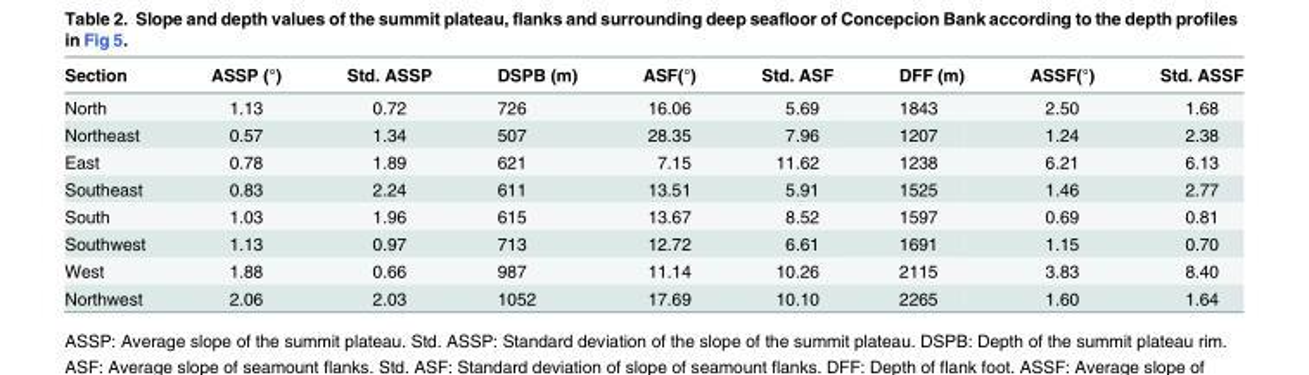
<table><thead><tr><td>Section</td><td>ASSP (°)</td><td>Std. ASSP</td><td>DSPB (m)</td><td>ASF(°)</td><td>Std. ASF</td><td>DFF (m)</td><td>ASSF(°)</td><td>Std. ASSF</td></tr></thead><tbody><tr><td>North</td><td>1.13</td><td>0.72</td><td>726</td><td>16.06</td><td>5.69</td><td>1843</td><td>2.50</td><td>1.68</td></tr><tr><td>Northeast</td><td>0.57</td><td>1.34</td><td>507</td><td>28.35</td><td>7.96</td><td>1207</td><td>1.24</td><td>2.38</td></tr><tr><td>East</td><td>0.78</td><td>1.89</td><td>621</td><td>7.15</td><td>11.62</td><td>1238</td><td>6.21</td><td>6.13</td></tr><tr><td>Southeast</td><td>0.83</td><td>2.24</td><td>611</td><td>13.51</td><td>5.91</td><td>1525</td><td>1.46</td><td>2.77</td></tr><tr><td>South</td><td>1.03</td><td>1.96</td><td>615</td><td>13.67</td><td>8.52</td><td>1597</td><td>0.69</td><td>0.81</td></tr><tr><td>Southwest</td><td>1.13</td><td>0.97</td><td>713</td><td>12.72</td><td>6.61</td><td>1691</td><td>1.15</td><td>0.70</td></tr><tr><td>West</td><td>1.88</td><td>0.66</td><td>987</td><td>11.14</td><td>10.26</td><td>2115</td><td>3.83</td><td>8.40</td></tr><tr><td>Northwest</td><td>2.06</td><td>2.03</td><td>1052</td><td>17.69</td><td>10.10</td><td>2265</td><td>1.60</td><td>1.64</td></tr></tbody></table>